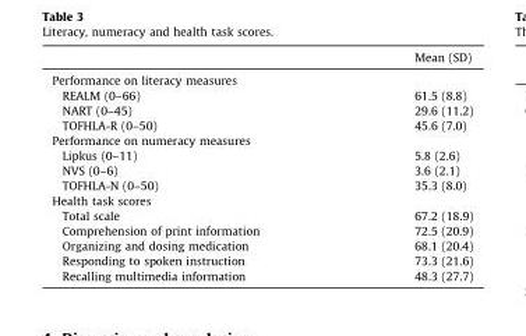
<table><thead><tr><td></td><td>Mean (SD)</td></tr></thead><tbody><tr><td colspan="2">Performance on literacy measures</td></tr><tr><td>REALM (0–66)</td><td>61.5 (8.8)</td></tr><tr><td>NART (0–45)</td><td>29.6 (11.2)</td></tr><tr><td>TOFHLA-R (0–50)</td><td>45.6 (7.0)</td></tr><tr><td colspan="2">Performance on numeracy measures</td></tr><tr><td>Lipkus (0–11)</td><td>5.8 (2.6)</td></tr><tr><td>NVS (0–6)</td><td>3.6 (2.1)</td></tr><tr><td>TOFHLA-N (0–50)</td><td>35.3 (8.0)</td></tr><tr><td colspan="2">Health task scores</td></tr><tr><td>Total scale</td><td>67.2 (18.9)</td></tr><tr><td>Comprehension of print information</td><td>72.5 (20.9)</td></tr><tr><td>Organizing and dosing medication</td><td>68.1 (20.4)</td></tr><tr><td>Responding to spoken instruction</td><td>73.3 (21.6)</td></tr><tr><td>Recalling multimedia information</td><td>48.3 (27.7)</td></tr></tbody></table>